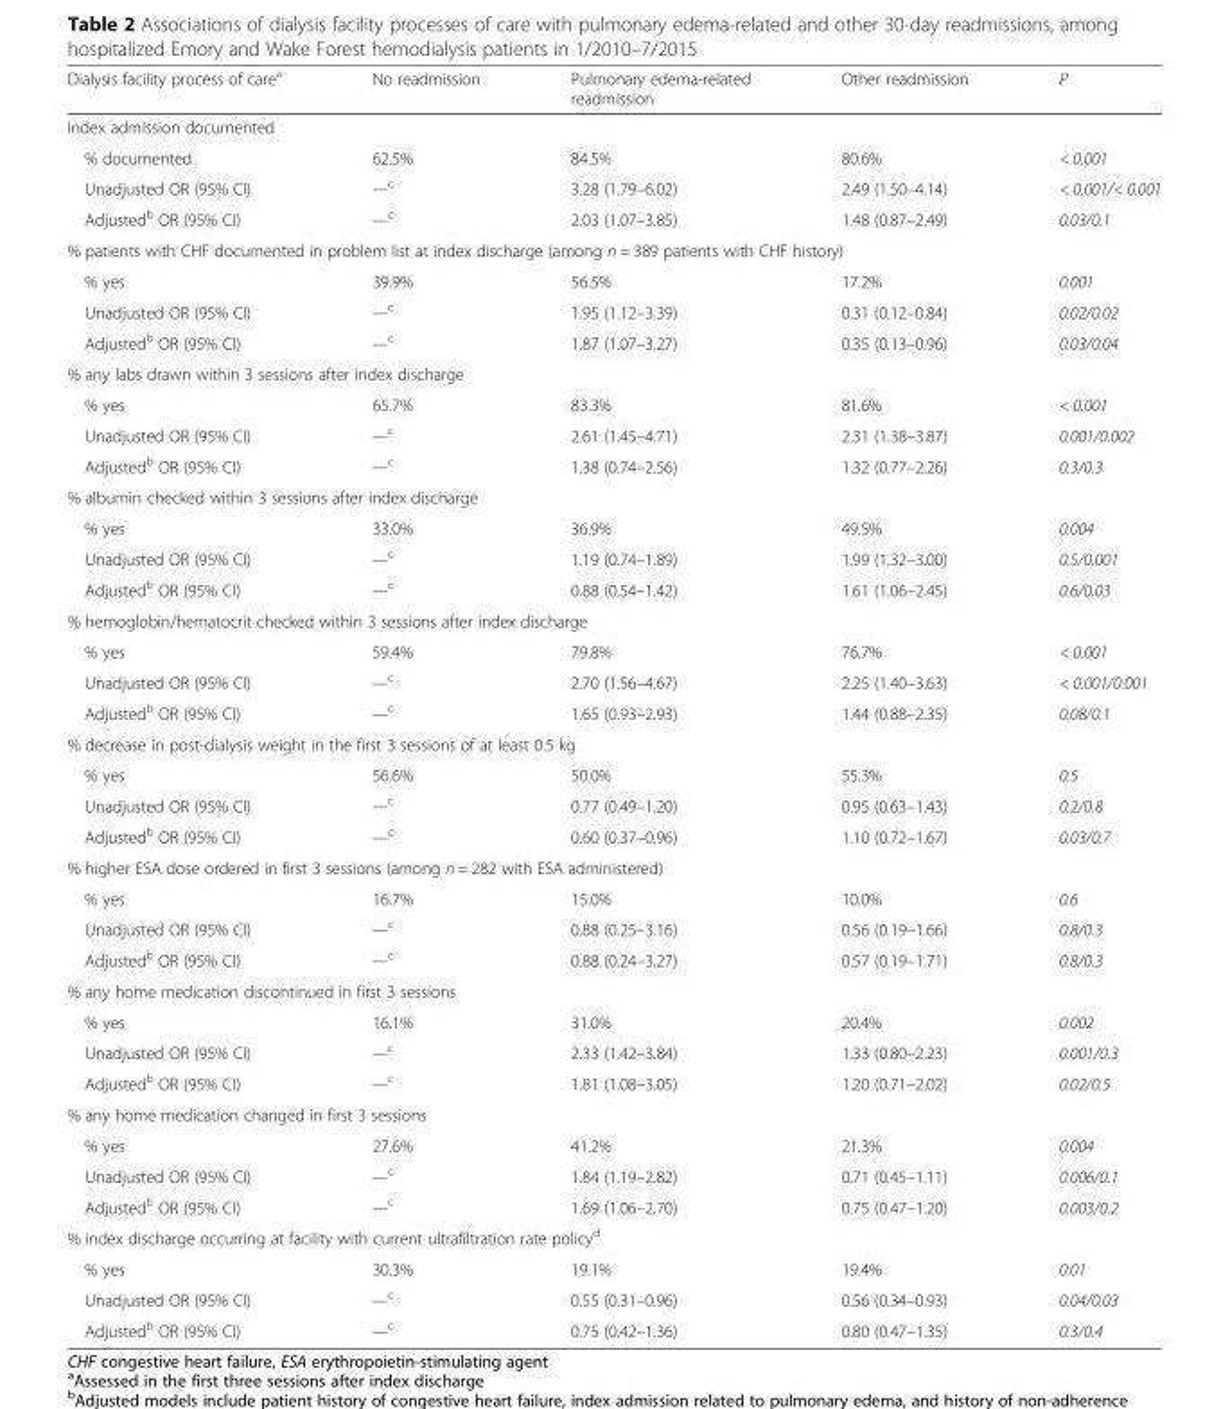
<table><thead><tr><td>Dialysis facility process of care<sup>a</sup></td><td>No readmission</td><td>Pulmonary edema-related readmission</td><td>Other readmission</td><td>P</td></tr></thead><tbody><tr><td colspan="5">Index admission documented</td></tr><tr><td>% documented</td><td>62.5%</td><td>84.5%</td><td>80.6%</td><td>&lt; 0.001</td></tr><tr><td>Unadjusted OR (95% CI)</td><td>---<sup>c</sup></td><td>3.28 (1.79–6.02)</td><td>2.49 (1.50–4.14)</td><td>&lt; 0.001/&lt; 0.001</td></tr><tr><td>Adjusted<sup>b</sup> OR (95% CI)</td><td>---<sup>c</sup></td><td>2.03 (1.07–3.85)</td><td>1.48 (0.87–2.49)</td><td>0.03/0.1</td></tr><tr><td colspan="5">% patients with CHF documented in problem list at index discharge (among n = 389 patients with CHF history)</td></tr><tr><td>% yes</td><td>39.9%</td><td>56.5%</td><td>17.2%</td><td>0.001</td></tr><tr><td>Unadjusted OR (95% CI)</td><td>---<sup>c</sup></td><td>1.95 (1.12–3.39)</td><td>0.31 (0.12–0.84)</td><td>0.02/0.02</td></tr><tr><td>Adjusted<sup>b</sup> OR (95% CI)</td><td>---<sup>c</sup></td><td>1.87 (1.07–3.27)</td><td>0.35 (0.13–0.96)</td><td>0.03/0.04</td></tr><tr><td colspan="5">% any labs drawn within 3 sessions after index discharge</td></tr><tr><td>% yes</td><td>65.7%</td><td>83.3%</td><td>81.6%</td><td>&lt; 0.001</td></tr><tr><td>Unadjusted OR (95% CI)</td><td>---<sup>c</sup></td><td>2.61 (1.45–4.71)</td><td>2.31 (1.38–3.87)</td><td>0.001/0.002</td></tr><tr><td>Adjusted<sup>b</sup> OR (95% CI)</td><td>---<sup>c</sup></td><td>1.38 (0.74–2.56)</td><td>1.32 (0.77–2.26)</td><td>0.3/0.3</td></tr><tr><td colspan="5">% albumin checked within 3 sessions after index discharge</td></tr><tr><td>% yes</td><td>33.0%</td><td>36.9%</td><td>49.5%</td><td>0.004</td></tr><tr><td>Unadjusted OR (95% CI)</td><td>---<sup>c</sup></td><td>1.19 (0.74–1.89)</td><td>1.99 (1.32–3.00)</td><td>0.5/0.001</td></tr><tr><td>Adjusted<sup>b</sup> OR (95% CI)</td><td>---<sup>c</sup></td><td>0.88 (0.54–1.42)</td><td>1.61 (1.06–2.45)</td><td>0.6/0.03</td></tr><tr><td colspan="5">% hemoglobin/hematocrit checked within 3 sessions after index discharge</td></tr><tr><td>% yes</td><td>59.4%</td><td>79.8%</td><td>76.7%</td><td>&lt; 0.001</td></tr><tr><td>Unadjusted OR (95% CI)</td><td>---<sup>c</sup></td><td>2.70 (1.56–4.67)</td><td>2.25 (1.40–3.63)</td><td>&lt; 0.001/0.001</td></tr><tr><td>Adjusted<sup>b</sup> OR (95% CI)</td><td>---<sup>c</sup></td><td>1.65 (0.93–2.93)</td><td>1.44 (0.88–2.35)</td><td>0.08/0.1</td></tr><tr><td colspan="5">% decrease in post-dialysis weight in the first 3 sessions of at least 0.5 kg</td></tr><tr><td>% yes</td><td>56.6%</td><td>50.0%</td><td>55.3%</td><td>0.5</td></tr><tr><td>Unadjusted OR (95% CI)</td><td>---<sup>c</sup></td><td>0.77 (0.49–1.20)</td><td>0.95 (0.63–1.43)</td><td>0.2/0.8</td></tr><tr><td>Adjusted<sup>b</sup> OR (95% CI)</td><td>---<sup>c</sup></td><td>0.60 (0.37–0.96)</td><td>1.10 (0.72–1.67)</td><td>0.03/0.7</td></tr><tr><td colspan="5">% higher ESA dose ordered in first 3 sessions (among n = 282 with ESA administered)</td></tr><tr><td>% yes</td><td>16.7%</td><td>15.0%</td><td>10.0%</td><td>0.6</td></tr><tr><td>Unadjusted OR (95% CI)</td><td>---<sup>c</sup></td><td>0.88 (0.25–3.16)</td><td>0.56 (0.19–1.66)</td><td>0.8/0.3</td></tr><tr><td>Adjusted<sup>b</sup> OR (95% CI)</td><td>---<sup>c</sup></td><td>0.88 (0.24–3.27)</td><td>0.57 (0.19–1.71)</td><td>0.8/0.3</td></tr><tr><td colspan="5">% any home medication discontinued in first 3 sessions</td></tr><tr><td>% yes</td><td>16.1%</td><td>31.0%</td><td>20.4%</td><td>0.002</td></tr><tr><td>Unadjusted OR (95% CI)</td><td>---<sup>c</sup></td><td>2.33 (1.42–3.84)</td><td>1.33 (0.80–2.23)</td><td>0.001/0.3</td></tr><tr><td>Adjusted<sup>b</sup> OR (95% CI)</td><td>---<sup>c</sup></td><td>1.81 (1.08–3.05)</td><td>1.20 (0.71–2.02)</td><td>0.02/0.5</td></tr><tr><td colspan="5">% any home medication changed in first 3 sessions</td></tr><tr><td>% yes</td><td>27.6%</td><td>41.2%</td><td>21.3%</td><td>0.004</td></tr><tr><td>Unadjusted OR (95% CI)</td><td>---<sup>c</sup></td><td>1.84 (1.19–2.82)</td><td>0.71 (0.45–1.11)</td><td>0.006/0.1</td></tr><tr><td>Adjusted<sup>b</sup> OR (95% CI)</td><td>---<sup>c</sup></td><td>1.69 (1.06–2.70)</td><td>0.75 (0.47–1.20)</td><td>0.003/0.2</td></tr><tr><td colspan="5">% index discharge occurring at facility with current ultrafiltration rate policy<sup>d</sup></td></tr><tr><td>% yes</td><td>30.3%</td><td>19.1%</td><td>19.4%</td><td>0.01</td></tr><tr><td>Unadjusted OR (95% CI)</td><td>---<sup>c</sup></td><td>0.55 (0.31–0.96)</td><td>0.56 (0.34–0.93)</td><td>0.04/0.03</td></tr><tr><td>Adjusted<sup>b</sup> OR (95% CI)</td><td>---<sup>c</sup></td><td>0.75 (0.42–1.36)</td><td>0.80 (0.47–1.35)</td><td>0.3/0.4</td></tr></tbody></table>